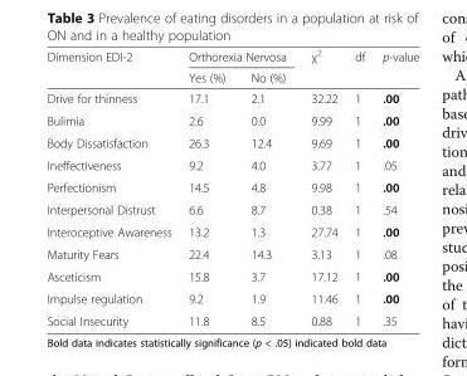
<table><thead><tr><td rowspan="2">Dimension EDI-2</td><td colspan="2">Orthorexia Nervosa</td><td rowspan="2">χ<sup>2</sup></td><td rowspan="2">df</td><td rowspan="2">p-value</td></tr><tr><td>Yes (%)</td><td>No (%)</td></tr></thead><tbody><tr><td>Drive for thinness</td><td>17.1</td><td>2.1</td><td>32.22</td><td>1</td><td>.00</td></tr><tr><td>Bulimia</td><td>2.6</td><td>0.0</td><td>9.99</td><td>1</td><td>.00</td></tr><tr><td>Body Dissatisfaction</td><td>26.3</td><td>12.4</td><td>9.69</td><td>1</td><td>.00</td></tr><tr><td>Ineffectiveness</td><td>9.2</td><td>4.0</td><td>3.77</td><td>1</td><td>.05</td></tr><tr><td>Perfectionism</td><td>14.5</td><td>4.8</td><td>9.98</td><td>1</td><td>.00</td></tr><tr><td>Interpersonal Distrust</td><td>6.6</td><td>8.7</td><td>0.38</td><td>1</td><td>.54</td></tr><tr><td>Interoceptive Awareness</td><td>13.2</td><td>1.3</td><td>27.74</td><td>1</td><td>.00</td></tr><tr><td>Maturity Fears</td><td>22.4</td><td>14.3</td><td>3.13</td><td>1</td><td>.08</td></tr><tr><td>Asceticism</td><td>15.8</td><td>3.7</td><td>17.12</td><td>1</td><td>.00</td></tr><tr><td>Impulse regulation</td><td>9.2</td><td>1.9</td><td>11.46</td><td>1</td><td>.00</td></tr><tr><td>Social Insecurity</td><td>11.8</td><td>8.5</td><td>0.88</td><td>1</td><td>.35</td></tr></tbody></table>